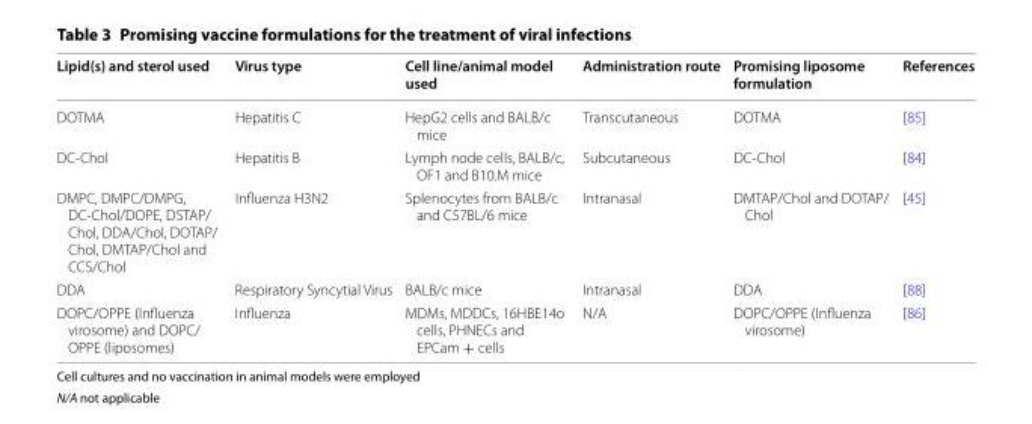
<table><thead><tr><td>Lipid(s) and sterol used</td><td>Virus type</td><td>Cell line/animal model used</td><td>Administration route</td><td>Promising liposome formulation</td><td>References</td></tr></thead><tbody><tr><td>DOTMA</td><td>Hepatitis C</td><td>HepG2 cells and BALB/c mice</td><td>Transcutaneous</td><td>DOTMA</td><td>[85]</td></tr><tr><td>DC-Chol</td><td>Hepatitis B</td><td>Lymph node cells, BALB/c, OF1 and B10.M mice</td><td>Subcutaneous</td><td>DC-Chol</td><td>[84]</td></tr><tr><td>DMPC, DMPC/DMPG, DC-Chol/DOPE, DSTAP/ Chol, DDA/Chol, DOTAP/ Chol, DMTAP/Chol and CCS/Chol</td><td>Influenza H3N2</td><td>Splenocytes from BALB/c and C57BL/6 mice</td><td>Intranasal</td><td>DMTAP/Chol and DOTAP/ Chol</td><td>[45]</td></tr><tr><td>DDA</td><td>Respiratory Syncytial Virus</td><td>BALB/c mice</td><td>Intranasal</td><td>DDA</td><td>[88]</td></tr><tr><td>DOPC/OPPE (Influenza virosome) and DOPC/ OPPE (liposomes)</td><td>Influenza</td><td>MDMs, MDDCs, 16HBE14o cells, PHNECs and EPCam + cells</td><td>N/A</td><td>DOPC/OPPE (Influenza virosome)</td><td>[86]</td></tr></tbody></table>